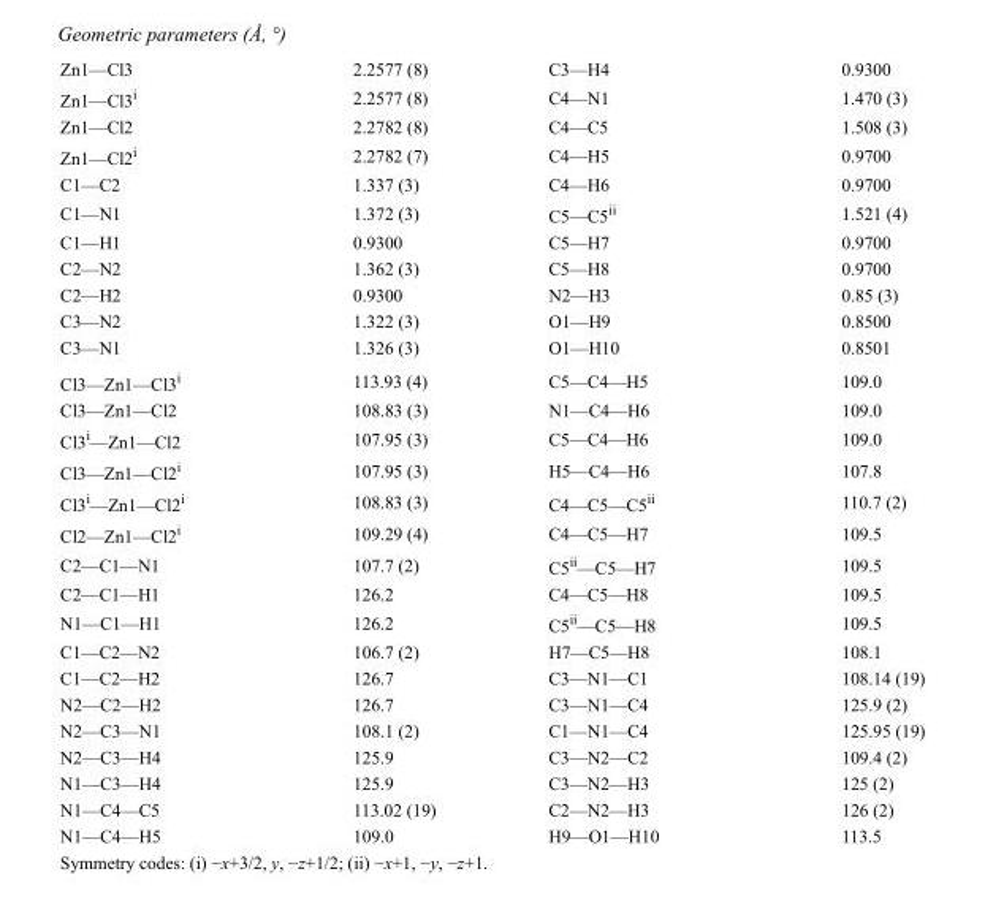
<table><tbody><tr><td>Zn1—Cl3</td><td>2.2577 (8)</td><td>C3—H4</td><td>0.9300</td></tr><tr><td>Zn1—Cl3<sup>i</sup></td><td>2.2577 (8)</td><td>C4—N1</td><td>1.470 (3)</td></tr><tr><td>Zn1—Cl2</td><td>2.2782 (8)</td><td>C4—C5</td><td>1.508 (3)</td></tr><tr><td>Zn1—Cl2<sup>i</sup></td><td>2.2782 (7)</td><td>C4—H5</td><td>0.9700</td></tr><tr><td>C1—C2</td><td>1.337 (3)</td><td>C4—H6</td><td>0.9700</td></tr><tr><td>C1—N1</td><td>1.372 (3)</td><td>C5—C5<sup>ii</sup></td><td>1.521 (4)</td></tr><tr><td>C1—H1</td><td>0.9300</td><td>C5—H7</td><td>0.9700</td></tr><tr><td>C2—N2</td><td>1.362 (3)</td><td>C5—H8</td><td>0.9700</td></tr><tr><td>C2—H2</td><td>0.9300</td><td>N2—H3</td><td>0.85 (3)</td></tr><tr><td>C3—N2</td><td>1.322 (3)</td><td>O1—H9</td><td>0.8500</td></tr><tr><td>C3—N1</td><td>1.326 (3)</td><td>O1—H10</td><td>0.8501</td></tr><tr><td>Cl3—Zn1—Cl3<sup>i</sup></td><td>113.93 (4)</td><td>C5—C4—H5</td><td>109.0</td></tr><tr><td>Cl3—Zn1—Cl2</td><td>108.83 (3)</td><td>N1—C4—H6</td><td>109.0</td></tr><tr><td>Cl3<sup>i</sup>—Zn1—Cl2</td><td>107.95 (3)</td><td>C5—C4—H6</td><td>109.0</td></tr><tr><td>Cl3—Zn1—Cl2<sup>i</sup></td><td>107.95 (3)</td><td>H5—C4—H6</td><td>107.8</td></tr><tr><td>Cl3<sup>i</sup>—Zn1—Cl2<sup>i</sup></td><td>108.83 (3)</td><td>C4—C5—C5<sup>ii</sup></td><td>110.7 (2)</td></tr><tr><td>Cl2—Zn1—Cl2<sup>i</sup></td><td>109.29 (4)</td><td>C4—C5—H7</td><td>109.5</td></tr><tr><td>C2—C1—N1</td><td>107.7 (2)</td><td>C5<sup>ii</sup>—C5—H7</td><td>109.5</td></tr><tr><td>C2—C1—H1</td><td>126.2</td><td>C4—C5—H8</td><td>109.5</td></tr><tr><td>N1—C1—H1</td><td>126.2</td><td>C5<sup>ii</sup>—C5—H8</td><td>109.5</td></tr><tr><td>C1—C2—N2</td><td>106.7 (2)</td><td>H7—C5—H8</td><td>108.1</td></tr><tr><td>C1—C2—H2</td><td>126.7</td><td>C3—N1—C1</td><td>108.14 (19)</td></tr><tr><td>N2—C2—H2</td><td>126.7</td><td>C3—N1—C4</td><td>125.9 (2)</td></tr><tr><td>N2—C3—N1</td><td>108.1 (2)</td><td>C1—N1—C4</td><td>125.95 (19)</td></tr><tr><td>N2—C3—H4</td><td>125.9</td><td>C3—N2—C2</td><td>109.4 (2)</td></tr><tr><td>N1—C3—H4</td><td>125.9</td><td>C3—N2—H3</td><td>125 (2)</td></tr><tr><td>N1—C4—C5</td><td>113.02 (19)</td><td>C2—N2—H3</td><td>126 (2)</td></tr><tr><td>N1—C4—H5</td><td>109.0</td><td>H9—O1—H10</td><td>113.5</td></tr></tbody></table>